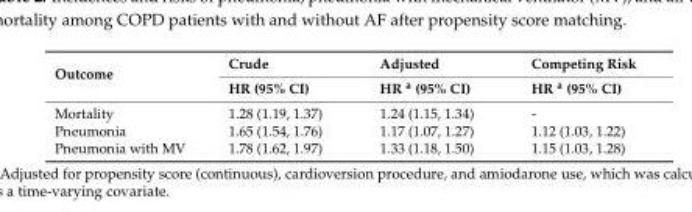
<table><thead><tr><td rowspan="2">Outcome</td><td rowspan="2">Crude HR (95% CI)</td><td rowspan="2">Adjusted HR <sup>a</sup> (95% CI)</td><td rowspan="2">Competing Risk HR <sup>a</sup> (95% CI)</td></tr><tr></tr></thead><tbody><tr><td>Mortality</td><td>1.28 (1.19, 1.37)</td><td>1.24 (1.15, 1.34)</td><td>-</td></tr><tr><td>Pneumonia</td><td>1.65 (1.54, 1.76)</td><td>1.17 (1.07, 1.27)</td><td>1.12 (1.03, 1.22)</td></tr><tr><td>Pneumonia with MV</td><td>1.78 (1.62, 1.97)</td><td>1.33 (1.18, 1.50)</td><td>1.15 (1.03, 1.28)</td></tr></tbody></table>